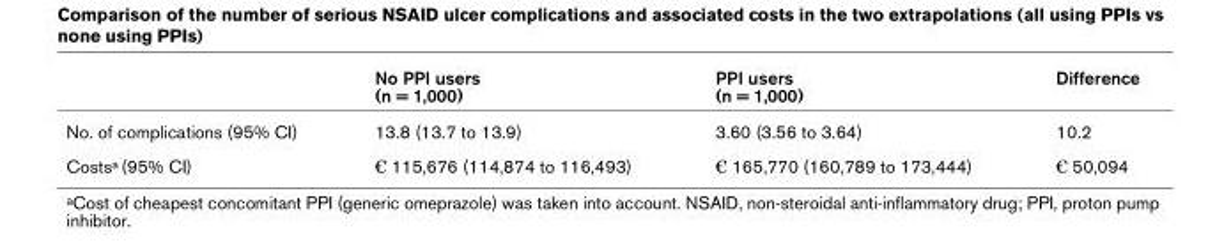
<table><thead><tr><td></td><td>No PPI users (n = 1,000)</td><td>PPI users (n = 1,000)</td><td>Difference</td></tr></thead><tbody><tr><td>No. of complications (95% CI)</td><td>13.8 (13.7 to 13.9)</td><td>3.60 (3.56 to 3.64)</td><td>10.2</td></tr><tr><td>Costs<sup>a</sup> (95% CI)</td><td>€ 115,676 (114,874 to 116,493)</td><td>€ 165,770 (160,789 to 173,444)</td><td>€ 50,094</td></tr></tbody></table>